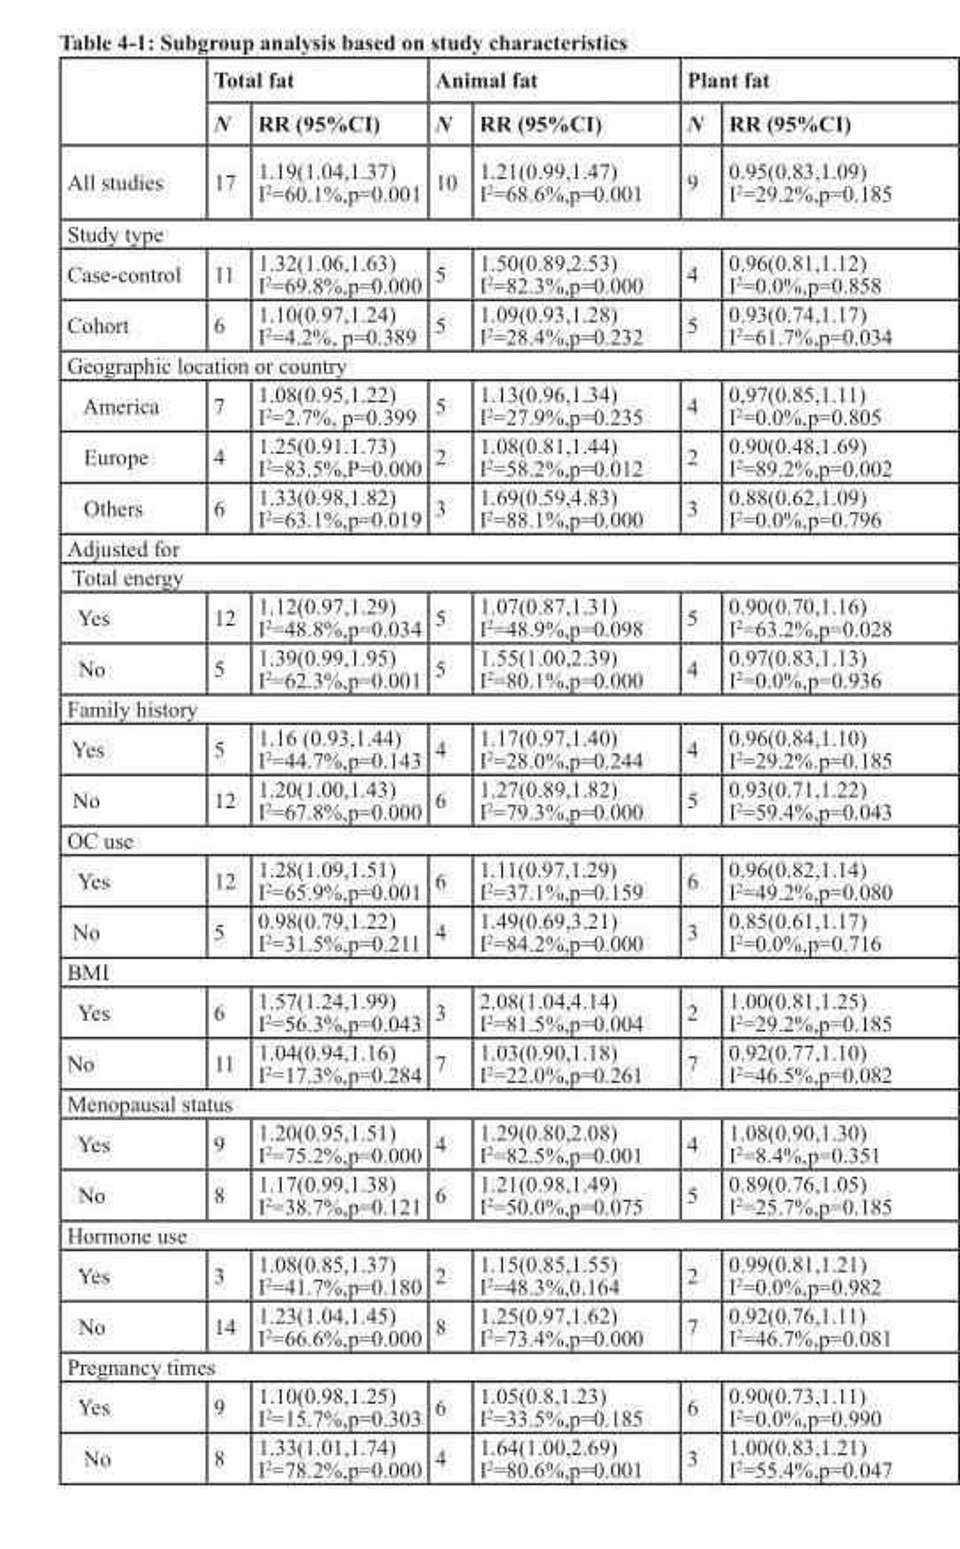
<table><thead><tr><td rowspan="2"></td><td colspan="2">total fat</td><td colspan="2">Animal fat</td><td colspan="2">Plant fat</td></tr><tr><td>N</td><td>RR (95%CI)</td><td>N</td><td>RR (95%CI)</td><td>N</td><td>RR (95%CI)</td></tr></thead><tbody><tr><td>All studies</td><td>17</td><td>1.19(1.04,1.37) I<sup>2</sup>=60.1%,p=0.001</td><td>10</td><td>1.21(0.99,1.47) I<sup>2</sup>=68.6%,p=0.001</td><td>9</td><td>0.95(0.83,1.09) I<sup>2</sup>=29.2%,p=0.185</td></tr><tr><td colspan="7">Study type</td></tr><tr><td>Case-control</td><td>11</td><td>1.32(1.06,1.63) I<sup>2</sup>=69.8%,p=0.000</td><td>5</td><td>1.50(0.89,2.53) I<sup>2</sup>=82.3%,p=0.000</td><td>4</td><td>0.96(0.81,1.12) I<sup>2</sup>=0.0%,p=0.858</td></tr><tr><td>Cohort</td><td>6</td><td>1.10(0.97,1.24) I<sup>2</sup>=4.2%, p=0.389</td><td>5</td><td>1.09(0.93,1.28) I<sup>2</sup>=28.4%,p=0.232</td><td>5</td><td>0.93(0.74,1.17) I<sup>2</sup>=61.7%,p=0.034</td></tr><tr><td colspan="7">Geographic location or country</td></tr><tr><td>America</td><td>7</td><td>1.08(0.95,1.22) I<sup>2</sup>=2.7%, p=0.399</td><td>5</td><td>1.13(0.96,1.34) I<sup>2</sup>=27.9%,p=0.235</td><td>4</td><td>0,97(0.85,1.11) I<sup>2</sup>=0.0%,p=0.805</td></tr><tr><td>Europe</td><td>4</td><td>1.25(0.91.1.73) I<sup>2</sup>=83.5%,P=0.000</td><td>2</td><td>1.08(0.81,1.44) I<sup>2</sup>=58.2%,p=0.012</td><td>2</td><td>0.90(0.48,1.69) I<sup>2</sup>=89.2%,p=0.002</td></tr><tr><td>Others</td><td>6</td><td>1.33(0.98,1.82) I<sup>2</sup>=63.1%,p=0.019</td><td>3</td><td>1.69(0.59,4.83) I<sup>2</sup>=88.1%,p=0.000</td><td>3</td><td>0.88(0.62,1.09) I<sup>2</sup>=0.0%,p=0.796</td></tr><tr><td colspan="7">Adjusted for</td></tr><tr><td colspan="7">Total energy</td></tr><tr><td>Yes</td><td>12</td><td>1.12(0.97,1.29) I<sup>2</sup>=48.8%,p=0.034</td><td>5</td><td>1.07(0.87,1.31) I<sup>2</sup>=48.9%,p=0.098</td><td>5</td><td>0.90(0.70,1.16) I<sup>2</sup>=63.2%,p=0.028</td></tr><tr><td>No</td><td>5</td><td>1.39(0.99,1.95) I<sup>2</sup>=62.3%,p=0.001</td><td>5</td><td>1.55(1.00,2.39) I<sup>2</sup>=80.1%,p=0.000</td><td>4</td><td>0.97(0.83,1.13) I<sup>2</sup>=0.0%,p=0.936</td></tr><tr><td colspan="7">Family history</td></tr><tr><td>Yes</td><td>5</td><td>1.16 (0.93,1.44) I<sup>2</sup>=44.7%,p=0.143</td><td>4</td><td>1.17(0.97,1.40) I<sup>2</sup>=28.0%,p=0.244</td><td>4</td><td>0.96(0.84,1.10) I<sup>2</sup>=29.2%.p=0.185</td></tr><tr><td>No</td><td>12</td><td>1.20(1.00,1.43) I<sup>2</sup>=67.8%,p=0.000</td><td>6</td><td>1.27(0.89,1.82) I<sup>2</sup>=79.3%,p=0.000</td><td>5</td><td>0.93(0.71,1.22) I<sup>2</sup>=59.4%,p=0.043</td></tr><tr><td colspan="7">OC use</td></tr><tr><td>Yes</td><td>12</td><td>1.28(1.09,1.51) I<sup>2</sup>=65.9%,p=0.001</td><td>6</td><td>1.11(0.97,1.29) I<sup>2</sup>=37.1%,p=0.159</td><td>6</td><td>0.96(0.82,1.14) I<sup>2</sup>=49.2%,p=0.080</td></tr><tr><td>No</td><td>5</td><td>0.98(0.79,1.22) I<sup>2</sup>=31.5%,p=0.211</td><td>4</td><td>1.49(0.69,3.21) I<sup>2</sup>=84.2%,p=0.000</td><td>3</td><td>0.85(0.61,1.17) I<sup>2</sup>=0.0%,p=0.716</td></tr><tr><td colspan="7">BMI</td></tr><tr><td>Yes</td><td>6</td><td>1.57(1.24,1.99) I<sup>2</sup>=56.3%,p=0.043</td><td>3</td><td>2.08(1.04,4.14) I<sup>2</sup>=81.5%,p=0.004</td><td>2</td><td>1.00(0.81,1.25) I<sup>2</sup>=29.2%,p=0.185</td></tr><tr><td>No</td><td>11</td><td>1.04(0.94,1.16) I<sup>2</sup>=17.3%,p=0.284</td><td>7</td><td>1.03(0.90,1.18) I<sup>2</sup>=22.0%,p=0.261</td><td>7</td><td>0.92(0.77,1.10) I<sup>2</sup>=46.5%,p=0.082</td></tr><tr><td colspan="7">Menopausal status</td></tr><tr><td>Yes</td><td>9</td><td>1.20(0.95,1.51) I<sup>2</sup>=75.2%,p=0.000</td><td>4</td><td>1.29(0.80,2.08) I<sup>2</sup>=82.5%,p=0.001</td><td>4</td><td>1.08(0.90,1.30) I<sup>2</sup>=8.4%,p=0.351</td></tr><tr><td>No</td><td>8</td><td>1.17(0.99,1.38) I<sup>2</sup>=38.7%,p=0.121</td><td>6</td><td>1.21(0.98,1.49) I<sup>2</sup>=50.0%,p=0.075</td><td>5</td><td>0.89(0.76,1.05) I<sup>2</sup>=25.7%,p=0.185</td></tr><tr><td colspan="7">Hormone use</td></tr><tr><td>Yes</td><td>3</td><td>1.08(0.85,1.37) I<sup>2</sup>=41.7%,p=0.180</td><td>2</td><td>1.15(0.85,1.55) I<sup>2</sup>=48.3%,0.164</td><td>2</td><td>0.99(0.81,1.21) I<sup>2</sup>=0.0%,p=0.982</td></tr><tr><td>No</td><td>14</td><td>1.23(1.04,1.45) I<sup>2</sup>=66.6%,p=0.000</td><td>8</td><td>1.25(0.97,1.62) I<sup>2</sup>=73.4%,p=0.000</td><td>7</td><td>0.92(0.76,1.11) I<sup>2</sup>=46.7%,p=0.081</td></tr><tr><td colspan="7">Pregnancy times</td></tr><tr><td>Yes</td><td>9</td><td>1.10(0.98,1.25) I<sup>2</sup>=15.7%,p=0.303</td><td>6</td><td>1.05(0.8,1.23) I<sup>2</sup>=33.5%,p=0.185</td><td>6</td><td>0.90(0.73,1.11) I<sup>2</sup>=0.0%,p=0.990</td></tr><tr><td>No</td><td>8</td><td>1.33(1.01,1.74) I<sup>2</sup>=78.2%,p=0.000</td><td>4</td><td>1.64(1.00,2.69) I<sup>2</sup>=80.6%,p=0.001</td><td>3</td><td>1.00(0.83,1.21) I<sup>2</sup>=55.4%,p=0.047</td></tr></tbody></table>